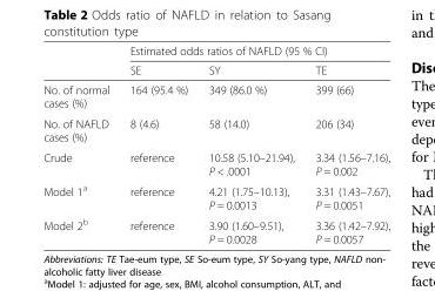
<table><thead><tr><td rowspan="2"></td><td colspan="3">Estimated odds ratios of NAFLD (95 % CI)</td></tr><tr><td>SE</td><td>SY</td><td>TE</td></tr></thead><tbody><tr><td>No. of normal cases (%)</td><td>164 (95.4 %)</td><td>349 (86.0 %)</td><td>399 (66)</td></tr><tr><td>No. of NAFLD cases (%)</td><td>8 (4.6)</td><td>58 (14.0)</td><td>206 (34)</td></tr><tr><td>Crude</td><td>reference</td><td>10.58 (5.10–21.94), P &lt; .0001</td><td>3.34 (1.56–7.16), P = 0.002</td></tr><tr><td>Model 1<sup>a</sup></td><td>reference</td><td>4.21 (1.75–10.13), P = 0.0013</td><td>3.31 (1.43–7.67), P = 0.0051</td></tr><tr><td>Model 2<sup>b</sup></td><td>reference</td><td>3.90 (1.60–9.51), P = 0.0028</td><td>3.36 (1.42–7.92), P = 0.0057</td></tr></tbody></table>